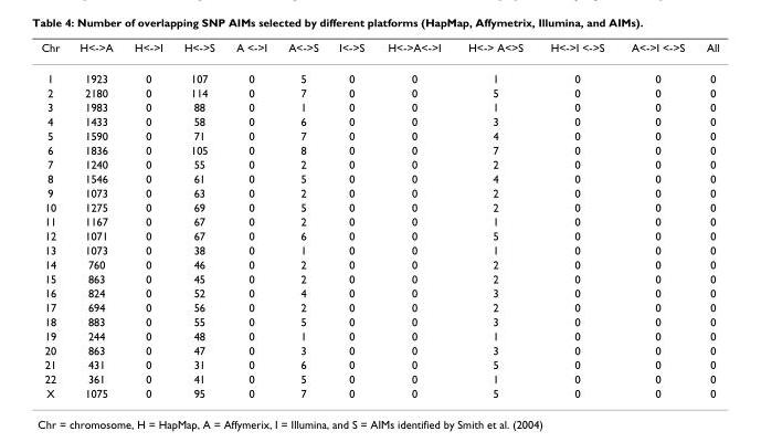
<table><thead><tr><td>Chr</td><td>H&lt;-&gt;A</td><td>H&lt;-&gt;I</td><td>H&lt;-&gt;S</td><td>A &lt;-&gt;I</td><td>A&lt;-&gt;S</td><td>I&lt;-&gt;S</td><td>H&lt;-&gt;A&lt;-&gt;I</td><td>H&lt;-&gt; A&lt;&gt;S</td><td>H&lt;-&gt;I &lt;-&gt;S</td><td>A&lt;-&gt;I &lt;-&gt;S</td><td>All</td></tr></thead><tbody><tr><td>1</td><td>1923</td><td>0</td><td>107</td><td>0</td><td>5</td><td>0</td><td>0</td><td>1</td><td>0</td><td>0</td><td>0</td></tr><tr><td>2</td><td>2180</td><td>0</td><td>114</td><td>0</td><td>7</td><td>0</td><td>0</td><td>5</td><td>0</td><td>0</td><td>0</td></tr><tr><td>3</td><td>1983</td><td>0</td><td>88</td><td>0</td><td>1</td><td>0</td><td>0</td><td>1</td><td>0</td><td>0</td><td>0</td></tr><tr><td>4</td><td>1433</td><td>0</td><td>58</td><td>0</td><td>6</td><td>0</td><td>0</td><td>3</td><td>0</td><td>0</td><td>0</td></tr><tr><td>5</td><td>1590</td><td>0</td><td>71</td><td>0</td><td>7</td><td>0</td><td>0</td><td>4</td><td>0</td><td>0</td><td>0</td></tr><tr><td>6</td><td>1836</td><td>0</td><td>105</td><td>0</td><td>8</td><td>0</td><td>0</td><td>7</td><td>0</td><td>0</td><td>0</td></tr><tr><td>7</td><td>1240</td><td>0</td><td>55</td><td>0</td><td>2</td><td>0</td><td>0</td><td>2</td><td>0</td><td>0</td><td>0</td></tr><tr><td>8</td><td>1546</td><td>0</td><td>61</td><td>0</td><td>5</td><td>0</td><td>0</td><td>4</td><td>0</td><td>0</td><td>0</td></tr><tr><td>9</td><td>1073</td><td>0</td><td>63</td><td>0</td><td>2</td><td>0</td><td>0</td><td>2</td><td>0</td><td>0</td><td>0</td></tr><tr><td>10</td><td>1275</td><td>0</td><td>69</td><td>0</td><td>5</td><td>0</td><td>0</td><td>2</td><td>0</td><td>0</td><td>0</td></tr><tr><td>11</td><td>1167</td><td>0</td><td>67</td><td>0</td><td>2</td><td>0</td><td>0</td><td>1</td><td>0</td><td>0</td><td>0</td></tr><tr><td>12</td><td>1071</td><td>0</td><td>67</td><td>0</td><td>6</td><td>0</td><td>0</td><td>5</td><td>0</td><td>0</td><td>0</td></tr><tr><td>13</td><td>1073</td><td>0</td><td>38</td><td>0</td><td>1</td><td>0</td><td>0</td><td>1</td><td>0</td><td>0</td><td>0</td></tr><tr><td>14</td><td>760</td><td>0</td><td>46</td><td>0</td><td>2</td><td>0</td><td>0</td><td>2</td><td>0</td><td>0</td><td>0</td></tr><tr><td>15</td><td>863</td><td>0</td><td>45</td><td>0</td><td>2</td><td>0</td><td>0</td><td>2</td><td>0</td><td>0</td><td>0</td></tr><tr><td>16</td><td>824</td><td>0</td><td>52</td><td>0</td><td>4</td><td>0</td><td>0</td><td>3</td><td>0</td><td>0</td><td>0</td></tr><tr><td>17</td><td>694</td><td>0</td><td>56</td><td>0</td><td>2</td><td>0</td><td>0</td><td>2</td><td>0</td><td>0</td><td>0</td></tr><tr><td>18</td><td>883</td><td>0</td><td>55</td><td>0</td><td>5</td><td>0</td><td>0</td><td>3</td><td>0</td><td>0</td><td>0</td></tr><tr><td>19</td><td>244</td><td>0</td><td>48</td><td>0</td><td>1</td><td>0</td><td>0</td><td>1</td><td>0</td><td>0</td><td>0</td></tr><tr><td>20</td><td>863</td><td>0</td><td>47</td><td>0</td><td>3</td><td>0</td><td>0</td><td>3</td><td>0</td><td>0</td><td>0</td></tr><tr><td>21</td><td>431</td><td>0</td><td>31</td><td>0</td><td>6</td><td>0</td><td>0</td><td>5</td><td>0</td><td>0</td><td>0</td></tr><tr><td>22</td><td>361</td><td>0</td><td>41</td><td>0</td><td>5</td><td>0</td><td>0</td><td>1</td><td>0</td><td>0</td><td>0</td></tr><tr><td>X</td><td>1075</td><td>0</td><td>95</td><td>0</td><td>7</td><td>0</td><td>0</td><td>5</td><td>0</td><td>0</td><td>0</td></tr></tbody></table>